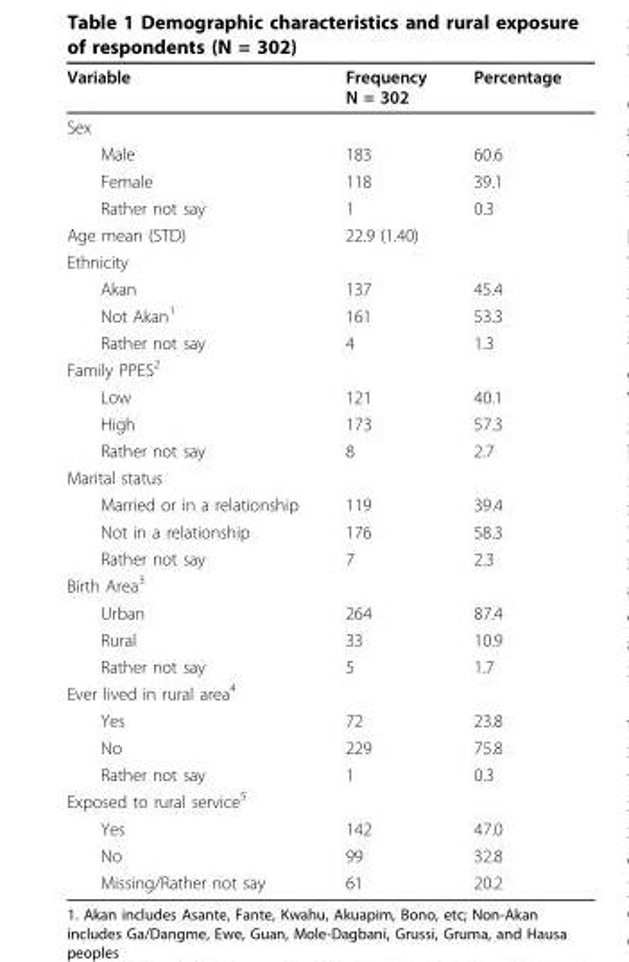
<table><thead><tr><td>Variable</td><td>Frequency N = 302</td><td>Percentage</td></tr></thead><tbody><tr><td colspan="3">Sex</td></tr><tr><td>Male</td><td>183</td><td>60.6</td></tr><tr><td>Female</td><td>118</td><td>39.1</td></tr><tr><td>Rather not say</td><td>1</td><td>0.3</td></tr><tr><td>Age mean (STD)</td><td>22.9 (1.40)</td><td></td></tr><tr><td colspan="3">Ethnicity</td></tr><tr><td>Akan</td><td>137</td><td>45.4</td></tr><tr><td>Not Akan<sup>1</sup></td><td>161</td><td>53.3</td></tr><tr><td>Rather not say</td><td>4</td><td>1.3</td></tr><tr><td colspan="3">Family PPES<sup>2</sup></td></tr><tr><td>Low</td><td>121</td><td>40.1</td></tr><tr><td>High</td><td>173</td><td>57.3</td></tr><tr><td>Rather not say</td><td>8</td><td>2.7</td></tr><tr><td colspan="3">Marital status</td></tr><tr><td>Married or in a relationship</td><td>119</td><td>39.4</td></tr><tr><td>Not in a relationship</td><td>176</td><td>58.3</td></tr><tr><td>Rather not say</td><td>7</td><td>2.3</td></tr><tr><td colspan="3">Birth Area<sup>3</sup></td></tr><tr><td>Urban</td><td>264</td><td>87.4</td></tr><tr><td>Rural</td><td>33</td><td>10.9</td></tr><tr><td>Rather not say</td><td>5</td><td>1.7</td></tr><tr><td colspan="3">Ever lived in rural area<sup>4</sup></td></tr><tr><td>Yes</td><td>72</td><td>23.8</td></tr><tr><td>No</td><td>229</td><td>75.8</td></tr><tr><td>Rather not say</td><td>1</td><td>0.3</td></tr><tr><td colspan="3">Exposed to rural service<sup>5</sup></td></tr><tr><td>Yes</td><td>142</td><td>47.0</td></tr><tr><td>No</td><td>99</td><td>32.8</td></tr><tr><td>Missing/Rather not say</td><td>61</td><td>20.2</td></tr></tbody></table>